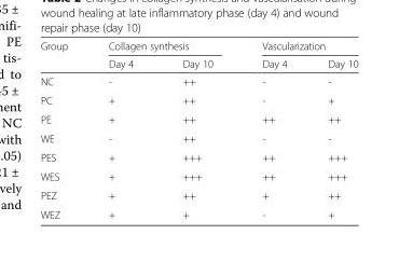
<table><thead><tr><td rowspan="2">Group</td><td colspan="2">Collagen synthesis</td><td colspan="2">Vascularization</td></tr><tr><td>Day 4</td><td>Day 10</td><td>Day 4</td><td>Day 10</td></tr></thead><tbody><tr><td>NC</td><td>-</td><td>++</td><td>-</td><td>-</td></tr><tr><td>PC</td><td>+</td><td>++</td><td>-</td><td>+</td></tr><tr><td>PE</td><td>+</td><td>++</td><td>++</td><td>++</td></tr><tr><td>WE</td><td>-</td><td>++</td><td>-</td><td>-</td></tr><tr><td>PES</td><td>+</td><td>+++</td><td>++</td><td>+++</td></tr><tr><td>WES</td><td>+</td><td>+++</td><td>++</td><td>+++</td></tr><tr><td>PEZ</td><td>+</td><td>++</td><td>+</td><td>++</td></tr><tr><td>WEZ</td><td>+</td><td>+</td><td>-</td><td>+</td></tr></tbody></table>